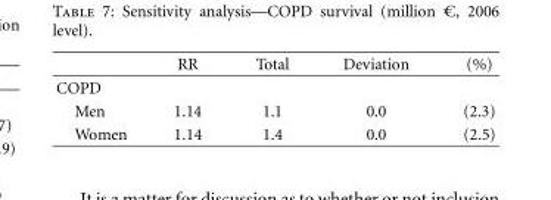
<table><thead><tr><td></td><td>RR</td><td>Total</td><td>Deviation</td><td>(%)</td></tr></thead><tbody><tr><td colspan="5">COPD</td></tr><tr><td>Men</td><td>1.14</td><td>1.1</td><td>0.0</td><td>(2.3)</td></tr><tr><td>Women</td><td>1.14</td><td>1.4</td><td>0.0</td><td>(2.5)</td></tr></tbody></table>